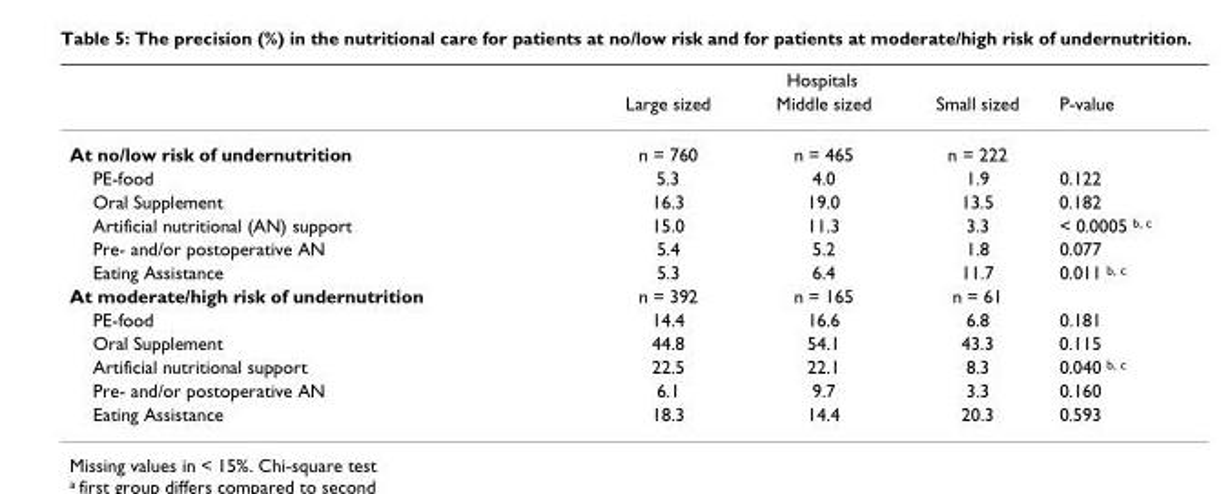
<table><thead><tr><td rowspan="2"></td><td colspan="3">Hospitals</td><td rowspan="2">P-value</td></tr><tr><td>Large sized</td><td>Middle sized</td><td>Small sized</td></tr></thead><tbody><tr><td>At no/low risk of undernutrition</td><td>n = 760</td><td>n = 465</td><td>n = 222</td><td></td></tr><tr><td>PE-food</td><td>5.3</td><td>4.0</td><td>1.9</td><td>0.122</td></tr><tr><td>Oral Supplement</td><td>16.3</td><td>19.0</td><td>13.5</td><td>0.182</td></tr><tr><td>Artificial nutritional (AN) support</td><td>15.0</td><td>11.3</td><td>3.3</td><td>&lt; 0.0005 <sup>b, c</sup></td></tr><tr><td>Pre- and/or postoperative AN</td><td>5.4</td><td>5.2</td><td>1.8</td><td>0.077</td></tr><tr><td>Eating Assistance</td><td>5.3</td><td>6.4</td><td>11.7</td><td>0.011 <sup>b, c</sup></td></tr><tr><td>At moderate/high risk of undernutrition</td><td>n = 392</td><td>n = 165</td><td>n = 61</td><td></td></tr><tr><td>PE-food</td><td>14.4</td><td>16.6</td><td>6.8</td><td>0.181</td></tr><tr><td>Oral Supplement</td><td>44.8</td><td>54.1</td><td>43.3</td><td>0.115</td></tr><tr><td>Artificial nutritional support</td><td>22.5</td><td>22.1</td><td>8.3</td><td>0.040 <sup>b, c</sup></td></tr><tr><td>Pre- and/or postoperative AN</td><td>6.1</td><td>9.7</td><td>3.3</td><td>0.160</td></tr><tr><td>Eating Assistance</td><td>18.3</td><td>14.4</td><td>20.3</td><td>0.593</td></tr></tbody></table>